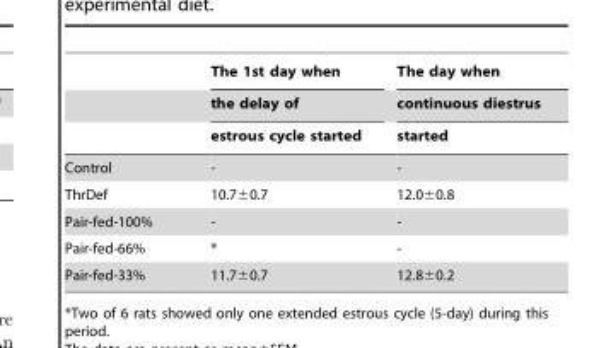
<table><thead><tr><td rowspan="3"></td><td rowspan="3">The 1st day when the delay of estrous cycle started</td><td rowspan="3">The day when continuous diestrus started</td></tr><tr></tr><tr></tr></thead><tbody><tr><td>Control</td><td>-</td><td>-</td></tr><tr><td>ThrDef</td><td>10.7±0.7</td><td>12.0±0.8</td></tr><tr><td>Pair-fed-100%</td><td>-</td><td>-</td></tr><tr><td>Pair-fed-66%</td><td>*</td><td>-</td></tr><tr><td>Pair-fed-33%</td><td>11.7±0.7</td><td>12.8±0.2</td></tr></tbody></table>